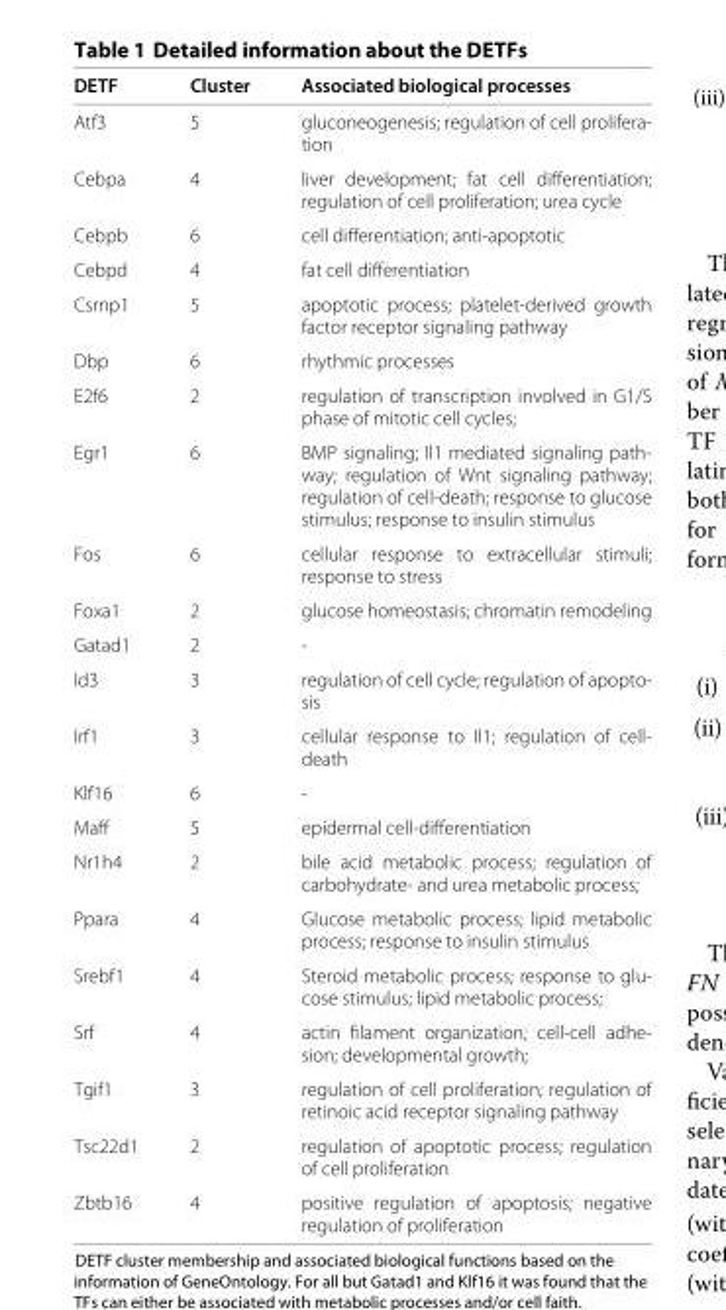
<table><thead><tr><td>DETF</td><td>Cluster</td><td>Associated biological processes</td></tr></thead><tbody><tr><td>Atf3</td><td>5</td><td>gluconeogenesis; regulation of cell prolifera- tion</td></tr><tr><td>Cebpa</td><td>4</td><td>liver development; fat cell differentiation; regulation of cell proliferation; urea cycle</td></tr><tr><td>Cebpb</td><td>6</td><td>cell differentiation; anti-apoptotic</td></tr><tr><td>Cebpd</td><td>4</td><td>fat cell differentiation</td></tr><tr><td>Csrnp1</td><td>5</td><td>apoptotic process; platelet-derived growth factor receptor signaling pathway</td></tr><tr><td>Dbp</td><td>6</td><td>rhythmic processes</td></tr><tr><td>E2f6</td><td>2</td><td>regulation of transcription involved in G1/S phase of mitotic cell cycles;</td></tr><tr><td>Egr1</td><td>6</td><td>BMP signaling; Il1 mediated signaling path- way; regulation of Wnt signaling pathway; regulation of cell-death; response to glucose stimulus; response to insulin stimulus</td></tr><tr><td>Fos</td><td>6</td><td>cellular response to extracellular stimuli; response to stress</td></tr><tr><td>Foxa1</td><td>2</td><td>glucose homeostasis; chromatin remodeling</td></tr><tr><td>Gatad1</td><td>2</td><td>-</td></tr><tr><td>Id3</td><td>3</td><td>regulation of cell cycle; regulation of apopto- sis</td></tr><tr><td>Irf1</td><td>3</td><td>cellular response to Il1; regulation of cell- death</td></tr><tr><td>Klf16</td><td>6</td><td>-</td></tr><tr><td>Maff</td><td>5</td><td>epidermal cell-differentiation</td></tr><tr><td>Nr1h4</td><td>2</td><td>bile acid metabolic process; regulation of carbohydrate- and urea metabolic process;</td></tr><tr><td>Ppara</td><td>4</td><td>Glucose metabolic process; lipid metabolic process; response to insulin stimulus</td></tr><tr><td>Srebf1</td><td>4</td><td>Steroid metabolic process; response to glu- cose stimulus; lipid metabolic process;</td></tr><tr><td>Srf</td><td>4</td><td>actin filament organization; cell-cell adhe- sion; developmental growth;</td></tr><tr><td>Tgif1</td><td>3</td><td>regulation of cell proliferation; regulation of retinoic acid receptor signaling pathway</td></tr><tr><td>Tsc22d1</td><td>2</td><td>regulation of apoptotic process; regulation of cell proliferation</td></tr><tr><td>Zbtb16</td><td>4</td><td>positive regulation of apoptosis; negative regulation of proliferation</td></tr></tbody></table>